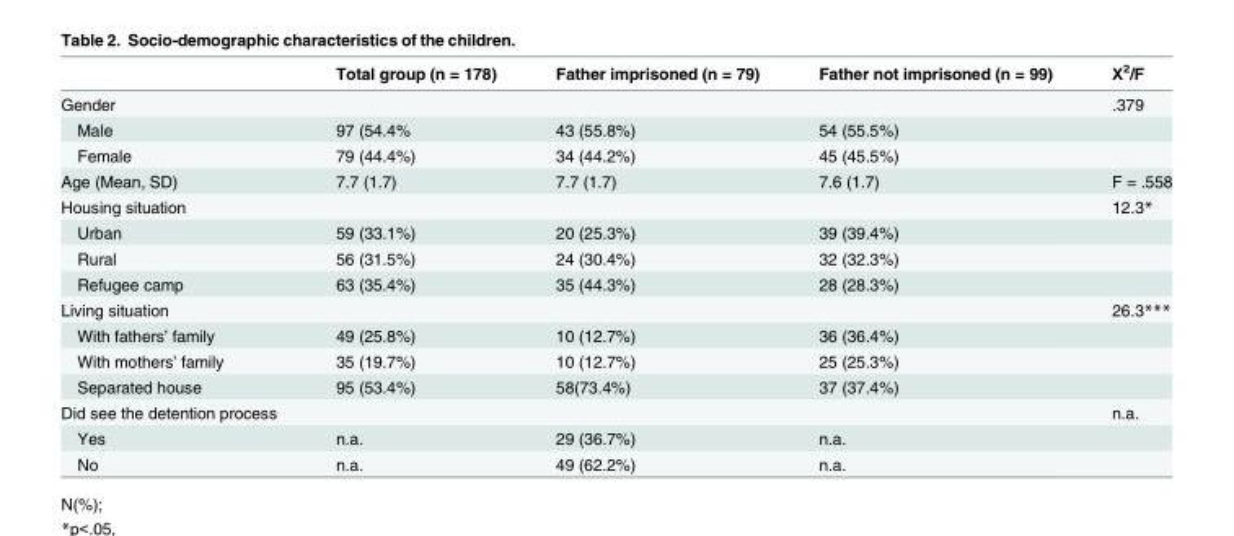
<table><thead><tr><td></td><td>Total group (n = 178)</td><td>Father imprisoned (n = 79)</td><td>Father not imprisoned (n = 99)</td><td>Χ<sup>2</sup>/F</td></tr></thead><tbody><tr><td>Gender</td><td></td><td></td><td></td><td>.379</td></tr><tr><td>Male</td><td>97 (54.4%</td><td>43 (55.8%)</td><td>54 (55.5%)</td><td></td></tr><tr><td>Female</td><td>79 (44.4%)</td><td>34 (44.2%)</td><td>45 (45.5%)</td><td></td></tr><tr><td>Age (Mean, SD)</td><td>7.7 (1.7)</td><td>7.7 (1.7)</td><td>7.6 (1.7)</td><td>F = .558</td></tr><tr><td>Housing situation</td><td></td><td></td><td></td><td>12.3*</td></tr><tr><td>Urban</td><td>59 (33.1%)</td><td>20 (25.3%)</td><td>39 (39.4%)</td><td></td></tr><tr><td>Rural</td><td>56 (31.5%)</td><td>24 (30.4%)</td><td>32 (32.3%)</td><td></td></tr><tr><td>Refugee camp</td><td>63 (35.4%)</td><td>35 (44.3%)</td><td>28 (28.3%)</td><td></td></tr><tr><td>Living situation</td><td></td><td></td><td></td><td>26.3***</td></tr><tr><td>With fathers’ family</td><td>49 (25.8%)</td><td>10 (12.7%)</td><td>36 (36.4%)</td><td></td></tr><tr><td>With mothers’ family</td><td>35 (19.7%)</td><td>10 (12.7%)</td><td>25 (25.3%)</td><td></td></tr><tr><td>Separated house</td><td>95 (53.4%)</td><td>58(73.4%)</td><td>37 (37.4%)</td><td></td></tr><tr><td>Did see the detention process</td><td></td><td></td><td></td><td>n.a.</td></tr><tr><td>Yes</td><td>n.a.</td><td>29 (36.7%)</td><td>n.a.</td><td></td></tr><tr><td>No</td><td>n.a.</td><td>49 (62.2%)</td><td>n.a.</td><td></td></tr></tbody></table>